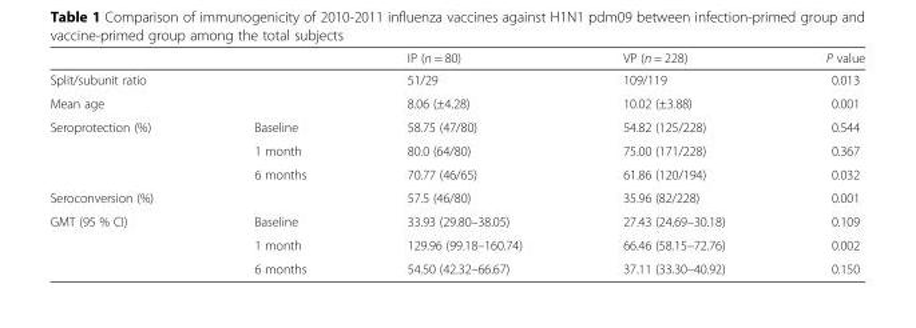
<table><thead><tr><td></td><td></td><td>IP (n = 80)</td><td>VP (n = 228)</td><td>P value</td></tr></thead><tbody><tr><td>Split/subunit ratio</td><td></td><td>51/29</td><td>109/119</td><td>0.013</td></tr><tr><td>Mean age</td><td></td><td>8.06 (±4.28)</td><td>10.02 (±3.88)</td><td>0.001</td></tr><tr><td rowspan="3">Seroprotection (%)</td><td>Baseline</td><td>58.75 (47/80)</td><td>54.82 (125/228)</td><td>0.544</td></tr><tr><td>1 month</td><td>80.0 (64/80)</td><td>75.00 (171/228)</td><td>0.367</td></tr><tr><td>6 months</td><td>70.77 (46/65)</td><td>61.86 (120/194)</td><td>0.032</td></tr><tr><td>Seroconversion (%)</td><td></td><td>57.5 (46/80)</td><td>35.96 (82/228)</td><td>0.001</td></tr><tr><td rowspan="3">GMT (95 % CI)</td><td>Baseline</td><td>33.93 (29.80–38.05)</td><td>27.43 (24.69–30.18)</td><td>0.109</td></tr><tr><td>1 month</td><td>129.96 (99.18–160.74)</td><td>66.46 (58.15–72.76)</td><td>0.002</td></tr><tr><td>6 months</td><td>54.50 (42.32–66.67)</td><td>37.11 (33.30–40.92)</td><td>0.150</td></tr></tbody></table>